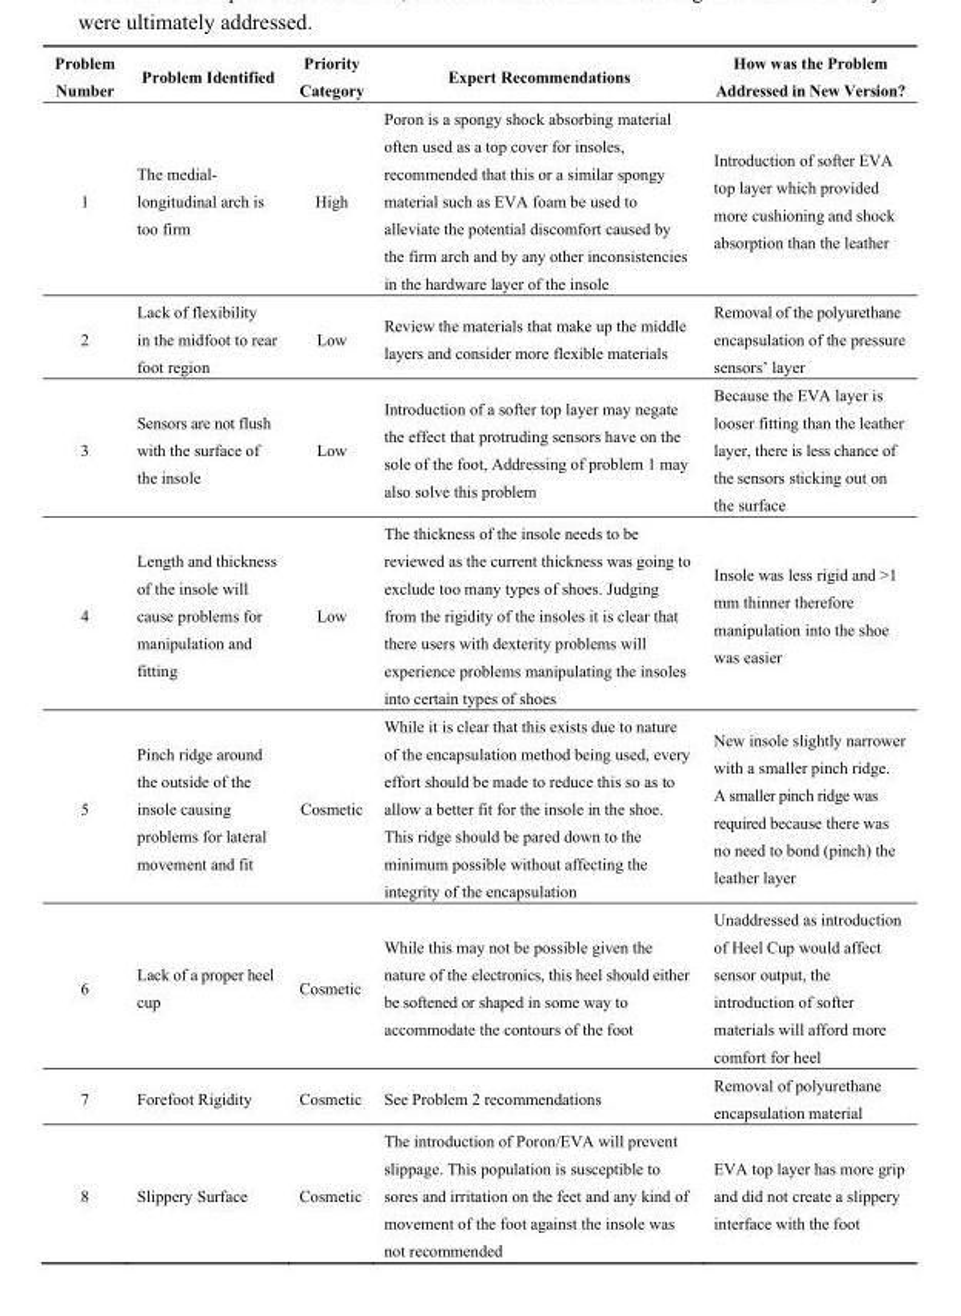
<table><thead><tr><td>Problem Number</td><td>Problem Identified</td><td>Priority Category</td><td>Expert Recommendations</td><td>How was the Problem Addressed in New Version?</td></tr></thead><tbody><tr><td>1</td><td>The medial- longitudinal arch is too firm</td><td>High</td><td>Poron is a spongy shock absorbing material often used as a top cover for insoles, recommended that this or a similar spongy material such as EVA foam be used to alleviate the potential discomfort caused by the firm arch and by any other inconsistencies in the hardware layer of the insole</td><td>Introduction of softer EVA top layer which provided more cushioning and shock absorption than the leather</td></tr><tr><td>2</td><td>Lack of flexibility in the midfoot to rear foot region</td><td>Low</td><td>Review the materials that make up the middle layers and consider more flexible materials</td><td>Removal of the polyurethane encapsulation of the pressure sensors’ layer</td></tr><tr><td>3</td><td>Sensors are not flush with the surface of the insole</td><td>Low</td><td>Introduction of a softer top layer may negate the effect that protruding sensors have on the sole of the foot, Addressing of problem 1 may also solve this problem</td><td>Because the EVA layer is looser fitting than the leather layer, there is less chance of the sensors sticking out on the surface</td></tr><tr><td>4</td><td>Length and thickness of the insole will cause problems for manipulation and fitting</td><td>Low</td><td>The thickness of the insole needs to be reviewed as the current thickness was going to exclude too many types of shoes. Judging from the rigidity of the insoles it is clear that there users with dexterity problems will experience problems manipulating the insoles into certain types of shoes</td><td>Insole was less rigid and &gt;1 mm thinner therefore manipulation into the shoe was easier</td></tr><tr><td>5</td><td>Pinch ridge around the outside of the insole causing problems for lateral movement and fit</td><td>Cosmetic</td><td>While it is clear that this exists due to nature of the encapsulation method being used, every effort should be made to reduce this so as to allow a better fit for the insole in the shoe. This ridge should be pared down to the minimum possible without affecting the integrity of the encapsulation</td><td>New insole slightly narrower with a smaller pinch ridge. A smaller pinch ridge was required because there was no need to bond (pinch) the leather layer</td></tr><tr><td>6</td><td>Lack of a proper heel cup</td><td>Cosmetic</td><td>While this may not be possible given the nature of the electronics, this heel should either be softened or shaped in some way to accommodate the contours of the foot</td><td>Unaddressed as introduction of Heel Cup would affect sensor output, the introduction of softer materials will afford more comfort for heel</td></tr><tr><td>7</td><td>Forefoot Rigidity</td><td>Cosmetic</td><td>See Problem 2 recommendations</td><td>Removal of polyurethane encapsulation material</td></tr><tr><td>8</td><td>Slippery Surface</td><td>Cosmetic</td><td>The introduction of Poron/EVA will prevent slippage. This population is susceptible to sores and irritation on the feet and any kind of movement of the foot against the insole was not recommended</td><td>EVA top layer has more grip and did not create a slippery interface with the foot</td></tr></tbody></table>